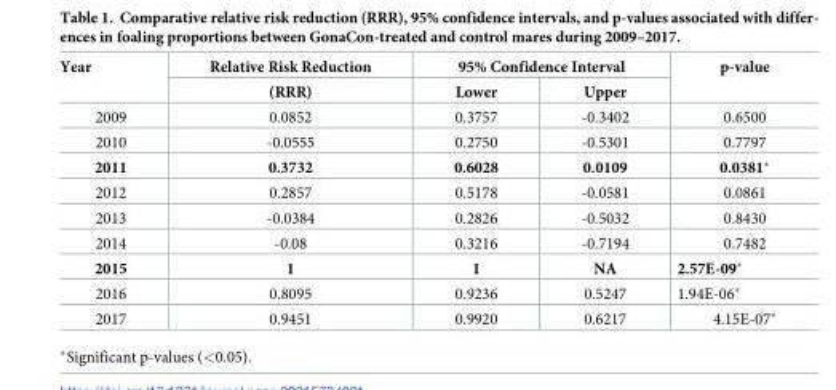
<table><thead><tr><td rowspan="2">Year</td><td rowspan="2">Relative Risk Reduction (RRR)</td><td colspan="2">95% Confidence Interval</td><td rowspan="2">p-value</td></tr><tr><td>Lower</td><td>Upper</td></tr></thead><tbody><tr><td>2009</td><td>0.0852</td><td>0.3757</td><td>-0.3402</td><td>0.6500</td></tr><tr><td>2010</td><td>-0.0555</td><td>0.2750</td><td>-0.5301</td><td>0.7797</td></tr><tr><td>2011</td><td>0.3732</td><td>0.6028</td><td>0.0109</td><td>0.0381*</td></tr><tr><td>2012</td><td>0.2857</td><td>0.5178</td><td>-0.0581</td><td>0.0861</td></tr><tr><td>2013</td><td>-0.0384</td><td>0.2826</td><td>-0.5032</td><td>0.8430</td></tr><tr><td>2014</td><td>-0.08</td><td>0.3216</td><td>-0.7194</td><td>0.7482</td></tr><tr><td>2015</td><td>1</td><td>1</td><td>NA</td><td>2.57E-09*</td></tr><tr><td>2016</td><td>0.8095</td><td>0.9236</td><td>0.5247</td><td>1.94E-06*</td></tr><tr><td>2017</td><td>0.9451</td><td>0.9920</td><td>0.6217</td><td>4.15E-07*</td></tr></tbody></table>